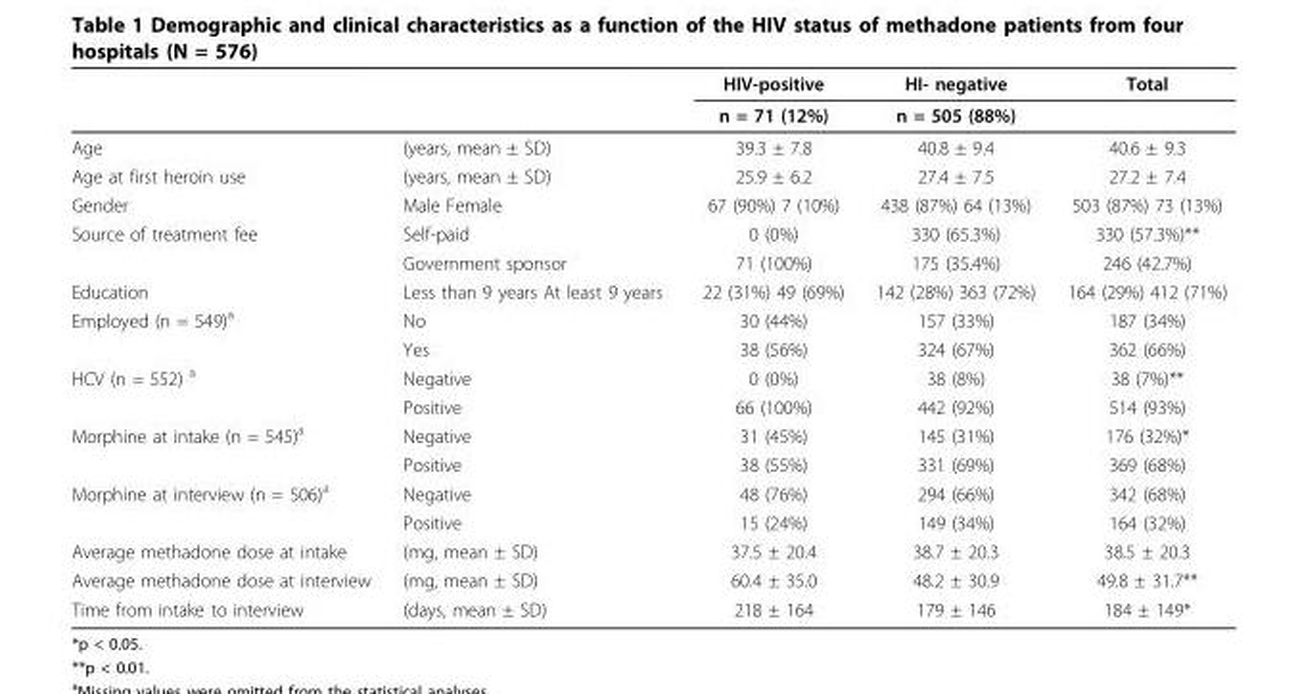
<table><thead><tr><td rowspan="2"></td><td rowspan="2"></td><td rowspan="2">HIV-positive n = 71 (12%)</td><td rowspan="2">HI- negative n = 505 (88%)</td><td rowspan="2">Total</td></tr><tr></tr></thead><tbody><tr><td>Age</td><td>(years, mean ± SD)</td><td>39.3 ± 7.8</td><td>40.8 ± 9.4</td><td>40.6 ± 9.3</td></tr><tr><td>Age at first heroin use</td><td>(years, mean ± SD)</td><td>25.9 ± 6.2</td><td>27.4 ± 7.5</td><td>27.2 ± 7.4</td></tr><tr><td>Gender</td><td>Male Female</td><td>67 (90%) 7 (10%)</td><td>438 (87%) 64 (13%)</td><td>503 (87%) 73 (13%)</td></tr><tr><td rowspan="2">Source of treatment fee</td><td>Self-paid</td><td>0 (0%)</td><td>330 (65.3%)</td><td>330 (57.3%)**</td></tr><tr><td>Government sponsor</td><td>71 (100%)</td><td>175 (35.4%)</td><td>246 (42.7%)</td></tr><tr><td>Education</td><td>Less than 9 years At least 9 years</td><td>22 (31%) 49 (69%)</td><td>142 (28%) 363 (72%)</td><td>164 (29%) 412 (71%)</td></tr><tr><td rowspan="2">Employed (n = 549)<sup>a</sup></td><td>No</td><td>30 (44%)</td><td>157 (33%)</td><td>187 (34%)</td></tr><tr><td>Yes</td><td>38 (56%)</td><td>324 (67%)</td><td>362 (66%)</td></tr><tr><td rowspan="2">HCV (n = 552) <sup>a</sup></td><td>Negative</td><td>0 (0%)</td><td>38 (8%)</td><td>38 (7%)**</td></tr><tr><td>Positive</td><td>66 (100%)</td><td>442 (92%)</td><td>514 (93%)</td></tr><tr><td rowspan="2">Morphine at intake (n = 545)<sup>a</sup></td><td>Negative</td><td>31 (45%)</td><td>145 (31%)</td><td>176 (32%)*</td></tr><tr><td>Positive</td><td>38 (55%)</td><td>331 (69%)</td><td>369 (68%)</td></tr><tr><td rowspan="2">Morphine at interview (n = 506)<sup>a</sup></td><td>Negative</td><td>48 (76%)</td><td>294 (66%)</td><td>342 (68%)</td></tr><tr><td>Positive</td><td>15 (24%)</td><td>149 (34%)</td><td>164 (32%)</td></tr><tr><td>Average methadone dose at intake</td><td>(mg, mean ± SD)</td><td>37.5 ± 20.4</td><td>38.7 ± 20.3</td><td>38.5 ± 20.3</td></tr><tr><td>Average methadone dose at interview</td><td>(mg, mean ± SD)</td><td>60.4 ± 35.0</td><td>48.2 ± 30.9</td><td>49.8 ± 31.7**</td></tr><tr><td>Time from intake to interview</td><td>(days, mean ± SD)</td><td>218 ± 164</td><td>179 ± 146</td><td>184 ± 149*</td></tr></tbody></table>